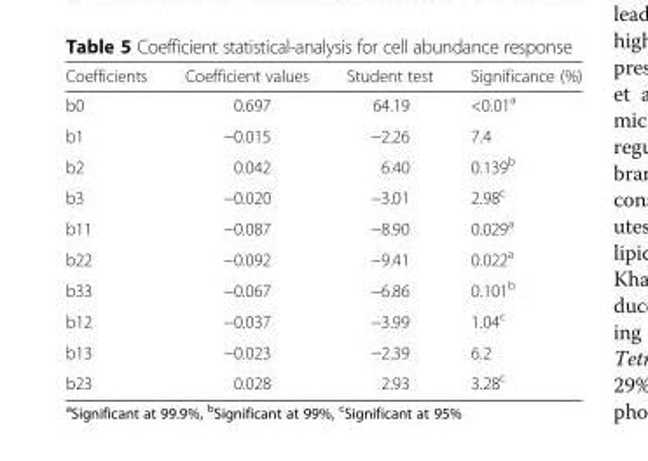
<table><thead><tr><td>Coefficients</td><td>Coefficient values</td><td>Student test</td><td>Significance (%)</td></tr></thead><tbody><tr><td>b0</td><td>0.697</td><td>64.19</td><td>&lt;0.01<sup>a</sup></td></tr><tr><td>b1</td><td>−0.015</td><td>−2.26</td><td>7.4</td></tr><tr><td>b2</td><td>0.042</td><td>6.40</td><td>0.139<sup>b</sup></td></tr><tr><td>b3</td><td>−0.020</td><td>−3.01</td><td>2.98<sup>c</sup></td></tr><tr><td>b11</td><td>−0.087</td><td>−8.90</td><td>0.029<sup>a</sup></td></tr><tr><td>b22</td><td>−0.092</td><td>−9.41</td><td>0.022<sup>a</sup></td></tr><tr><td>b33</td><td>−0.067</td><td>−6.86</td><td>0.101<sup>b</sup></td></tr><tr><td>b12</td><td>−0.037</td><td>−3.99</td><td>1.04<sup>c</sup></td></tr><tr><td>b13</td><td>−0.023</td><td>−2.39</td><td>6.2</td></tr><tr><td>b23</td><td>0.028</td><td>2.93</td><td>3.28<sup>c</sup></td></tr></tbody></table>